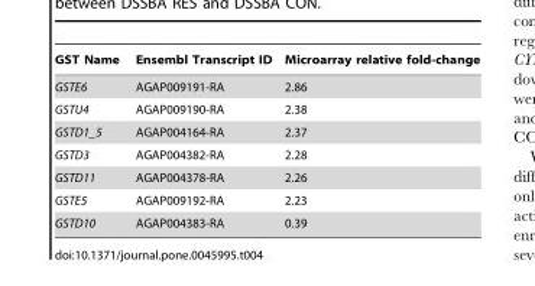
<table><thead><tr><td>GST Name</td><td>Ensembl Transcript ID</td><td>Microarray relative fold-change</td></tr></thead><tbody><tr><td>GSTE6</td><td>AGAP009191-RA</td><td>2.86</td></tr><tr><td>GSTU4</td><td>AGAP009190-RA</td><td>2.38</td></tr><tr><td>GSTD1_5</td><td>AGAP004164-RA</td><td>2.37</td></tr><tr><td>GSTD3</td><td>AGAP004382-RA</td><td>2.28</td></tr><tr><td>GSTD11</td><td>AGAP004378-RA</td><td>2.26</td></tr><tr><td>GSTE5</td><td>AGAP009192-RA</td><td>2.23</td></tr><tr><td>GSTD10</td><td>AGAP004383-RA</td><td>0.39</td></tr></tbody></table>